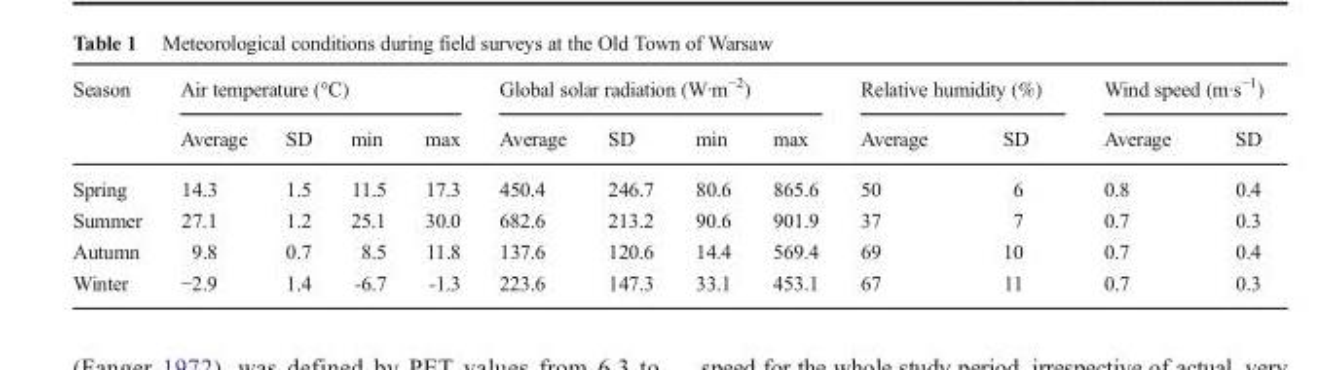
<table><thead><tr><td rowspan="2">Season</td><td colspan="4">Air temperature (°C)</td><td colspan="4">Global solar radiation (W·m<sup>−2</sup>)</td><td colspan="2">Relative humidity (%)</td><td colspan="2">Wind speed (m·s<sup>−1</sup>)</td></tr><tr><td>Average</td><td>SD</td><td>min</td><td>max</td><td>Average</td><td>SD</td><td>min</td><td>max</td><td>Average</td><td>SD</td><td>Average</td><td>SD</td></tr></thead><tbody><tr><td>Spring</td><td>14.3</td><td>1.5</td><td>11.5</td><td>17.3</td><td>450.4</td><td>246.7</td><td>80.6</td><td>865.6</td><td>50</td><td>6</td><td>0.8</td><td>0.4</td></tr><tr><td>Summer</td><td>27.1</td><td>1.2</td><td>25.1</td><td>30.0</td><td>682.6</td><td>213.2</td><td>90.6</td><td>901.9</td><td>37</td><td>7</td><td>0.7</td><td>0.3</td></tr><tr><td>Autumn</td><td>9.8</td><td>0.7</td><td>8.5</td><td>11.8</td><td>137.6</td><td>120.6</td><td>14.4</td><td>569.4</td><td>69</td><td>10</td><td>0.7</td><td>0.4</td></tr><tr><td>Winter</td><td>−2.9</td><td>1.4</td><td>-6.7</td><td>-1.3</td><td>223.6</td><td>147.3</td><td>33.1</td><td>453.1</td><td>67</td><td>11</td><td>0.7</td><td>0.3</td></tr></tbody></table>